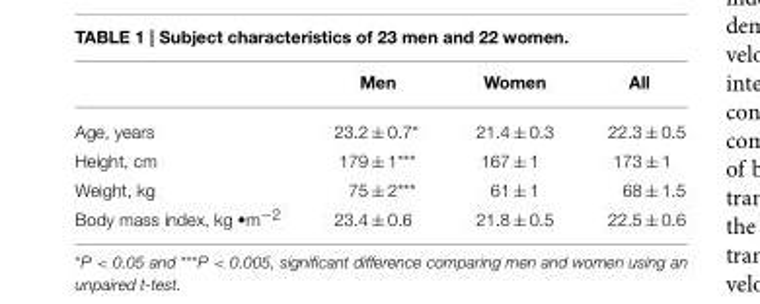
<table><thead><tr><td></td><td>Men</td><td>Women</td><td>All</td></tr></thead><tbody><tr><td>Age, years</td><td>23.2 ± 0.7*</td><td>21.4 ± 0.3</td><td>22.3 ± 0.5</td></tr><tr><td>Height, cm</td><td>179 ± 1***</td><td>167 ± 1</td><td>173 ± 1</td></tr><tr><td>Weight, kg</td><td>75 ± 2***</td><td>61 ± 1</td><td>68 ± 1.5</td></tr><tr><td>Body mass index, kg •m<sup>−2</sup></td><td>23.4 ± 0.6</td><td>21.8 ± 0.5</td><td>22.5 ± 0.6</td></tr></tbody></table>